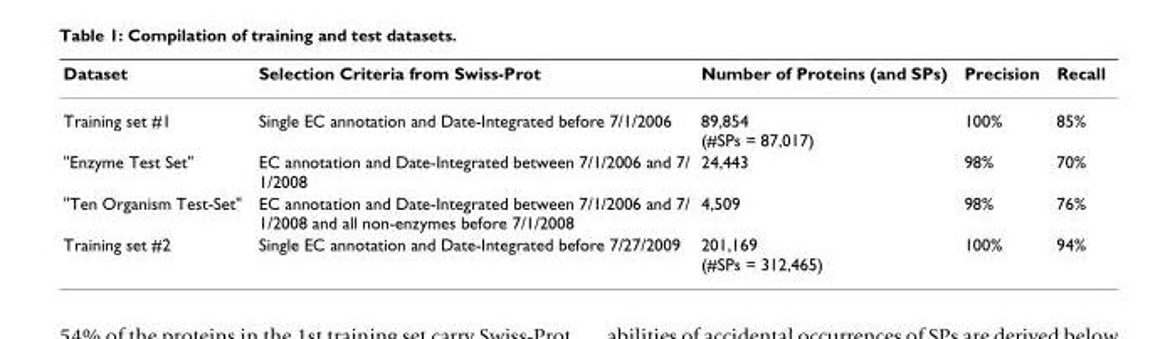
<table><thead><tr><td>Dataset</td><td>Selection Criteria from Swiss-Prot</td><td>Number of Proteins (and SPs)</td><td>Precision</td><td>Recall</td></tr></thead><tbody><tr><td>Training set #1</td><td>Single EC annotation and Date-Integrated before 7/1/2006</td><td>89,854 (#SPs = 87,017)</td><td>100%</td><td>85%</td></tr><tr><td>&quot;Enzyme Test Set&quot;</td><td>EC annotation and Date-Integrated between 7/1/2006 and 7/ 1/2008</td><td>24,443</td><td>98%</td><td>70%</td></tr><tr><td>&quot;Ten Organism Test-Set&quot;</td><td>EC annotation and Date-Integrated between 7/1/2006 and 7/ 1/2008 and all non-enzymes before 7/1/2008</td><td>4,509</td><td>98%</td><td>76%</td></tr><tr><td>Training set #2</td><td>Single EC annotation and Date-Integrated before 7/27/2009</td><td>201,169 (#SPs = 312,465)</td><td>100%</td><td>94%</td></tr></tbody></table>